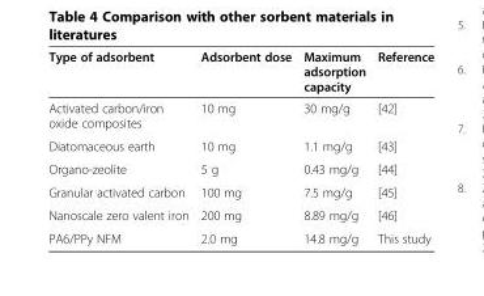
<table><thead><tr><td>Type of adsorbent</td><td>Adsorbent dose</td><td>Maximum adsorption capacity</td><td>Reference</td></tr></thead><tbody><tr><td>Activated carbon/iron oxide composites</td><td>10 mg</td><td>30 mg/g</td><td>[42]</td></tr><tr><td>Diatomaceous earth</td><td>10 mg</td><td>1.1 mg/g</td><td>[43]</td></tr><tr><td>Organo-zeolite</td><td>5 g</td><td>0.43 mg/g</td><td>[44]</td></tr><tr><td>Granular activated carbon</td><td>100 mg</td><td>7.5 mg/g</td><td>[45]</td></tr><tr><td>Nanoscale zero valent iron</td><td>200 mg</td><td>8.89 mg/g</td><td>[46]</td></tr><tr><td>PA6/PPy NFM</td><td>2.0 mg</td><td>14.8 mg/g</td><td>This study</td></tr></tbody></table>